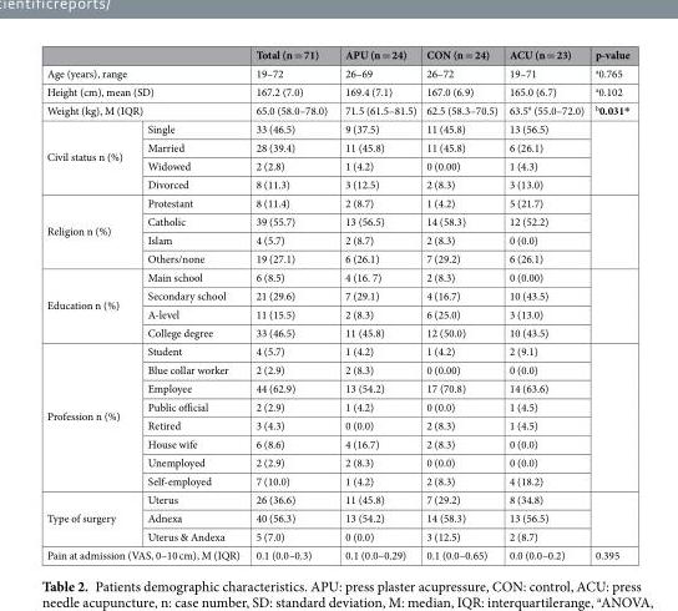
<table><thead><tr><td></td><td></td><td>Total (n = 71)</td><td>APU (n = 24)</td><td>CON (n = 24)</td><td>ACU (n = 23)</td><td>p-value</td></tr></thead><tbody><tr><td colspan="2">Age (years), range</td><td>19–72</td><td>26–69</td><td>26–72</td><td>19–71</td><td><sup>a</sup>0.765</td></tr><tr><td colspan="2">Height (cm), mean (SD)</td><td>167.2 (7.0)</td><td>169.4 (7.1)</td><td>167.0 (6.9)</td><td>165.0 (6.7)</td><td><sup>a</sup>0.102</td></tr><tr><td colspan="2">Weight (kg), M (IQR)</td><td>65.0 (58.0–78.0)</td><td>71.5 (61.5–81.5)</td><td>62.5 (58.3–70.5)</td><td>63.5<sup>#</sup> (55.0–72.0)</td><td><sup>b</sup>0.031*</td></tr><tr><td rowspan="4">Civil status n (%)</td><td>Single</td><td>33 (46.5)</td><td>9 (37.5)</td><td>11 (45.8)</td><td>13 (56.5)</td><td rowspan="4"></td></tr><tr><td>Married</td><td>28 (39.4)</td><td>11 (45.8)</td><td>11 (45.8)</td><td>6 (26.1)</td></tr><tr><td>Widowed</td><td>2 (2.8)</td><td>1 (4.2)</td><td>0 (0.00)</td><td>1 (4.3)</td></tr><tr><td>Divorced</td><td>8 (11.3)</td><td>3 (12.5)</td><td>2 (8.3)</td><td>3 (13.0)</td></tr><tr><td rowspan="4">Religion n (%)</td><td>Protestant</td><td>8 (11.4)</td><td>2 (8.7)</td><td>1 (4.2)</td><td>5 (21.7)</td><td rowspan="4"></td></tr><tr><td>Catholic</td><td>39 (55.7)</td><td>13 (56.5)</td><td>14 (58.3)</td><td>12 (52.2)</td></tr><tr><td>Islam</td><td>4 (5.7)</td><td>2 (8.7)</td><td>2 (8.3)</td><td>0 (0.0)</td></tr><tr><td>Others/none</td><td>19 (27.1)</td><td>6 (26.1)</td><td>7 (29.2)</td><td>6 (26.1)</td></tr><tr><td rowspan="4">Education n (%)</td><td>Main school</td><td>6 (8.5)</td><td>4 (16. 7)</td><td>2 (8.3)</td><td>0 (0.00)</td><td rowspan="4"></td></tr><tr><td>Secondary school</td><td>21 (29.6)</td><td>7 (29.1)</td><td>4 (16.7)</td><td>10 (43.5)</td></tr><tr><td>A-level</td><td>11 (15.5)</td><td>2 (8.3)</td><td>6 (25.0)</td><td>3 (13.0)</td></tr><tr><td>College degree</td><td>33 (46.5)</td><td>11 (45.8)</td><td>12 (50.0)</td><td>10 (43.5)</td></tr><tr><td rowspan="8">Profession n (%)</td><td>Student</td><td>4 (5.7)</td><td>1 (4.2)</td><td>1 (4.2)</td><td>2 (9.1)</td><td rowspan="8"></td></tr><tr><td>Blue collar worker</td><td>2 (2.9)</td><td>2 (8.3)</td><td>0 (0.00)</td><td>0 (0.0)</td></tr><tr><td>Employee</td><td>44 (62.9)</td><td>13 (54.2)</td><td>17 (70.8)</td><td>14 (63.6)</td></tr><tr><td>Public official</td><td>2 (2.9)</td><td>1 (4.2)</td><td>0 (0.0)</td><td>1 (4.5)</td></tr><tr><td>Retired</td><td>3 (4.3)</td><td>0 (0.0)</td><td>2 (8.3)</td><td>1 (4.5)</td></tr><tr><td>House wife</td><td>6 (8.6)</td><td>4 (16.7)</td><td>2 (8.3)</td><td>0 (0.0)</td></tr><tr><td>Unemployed</td><td>2 (2.9)</td><td>2 (8.3)</td><td>0 (0.0)</td><td>0 (0.0)</td></tr><tr><td>Self-employed</td><td>7 (10.0)</td><td>1 (4.2)</td><td>2 (8.3)</td><td>4 (18.2)</td></tr><tr><td rowspan="3">Type of surgery</td><td>Uterus</td><td>26 (36.6)</td><td>11 (45.8)</td><td>7 (29.2)</td><td>8 (34.8)</td><td rowspan="3"></td></tr><tr><td>Adnexa</td><td>40 (56.3)</td><td>13 (54.2)</td><td>14 (58.3)</td><td>13 (56.5)</td></tr><tr><td>Uterus &amp; Andexa</td><td>5 (7.0)</td><td>0 (0.0)</td><td>3 (12.5)</td><td>2 (8.7)</td></tr><tr><td colspan="2">Pain at admission (VAS, 0–10 cm), M (IQR)</td><td>0.1 (0.0–0.3)</td><td>0.1 (0.0–0.29)</td><td>0.1 (0.0–0.65)</td><td>0.0 (0.0–0.2)</td><td>0.395</td></tr></tbody></table>